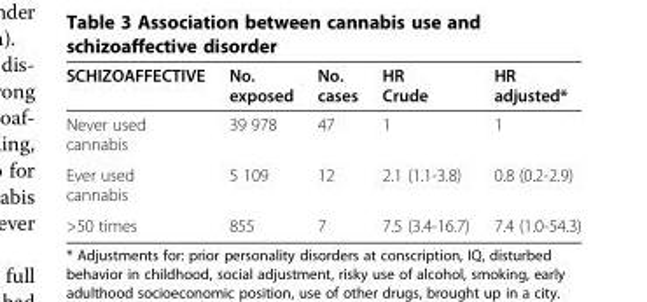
<table><thead><tr><td>SCHIZOAFFECTIVE</td><td>No. exposed</td><td>No. cases</td><td>HR Crude</td><td>HR adjusted*</td></tr></thead><tbody><tr><td>Never used cannabis</td><td>39 978</td><td>47</td><td>1</td><td>1</td></tr><tr><td>Ever used cannabis</td><td>5 109</td><td>12</td><td>2.1 (1.1-3.8)</td><td>0.8 (0.2-2.9)</td></tr><tr><td>&gt;50 times</td><td>855</td><td>7</td><td>7.5 (3.4-16.7)</td><td>7.4 (1.0-54.3)</td></tr></tbody></table>